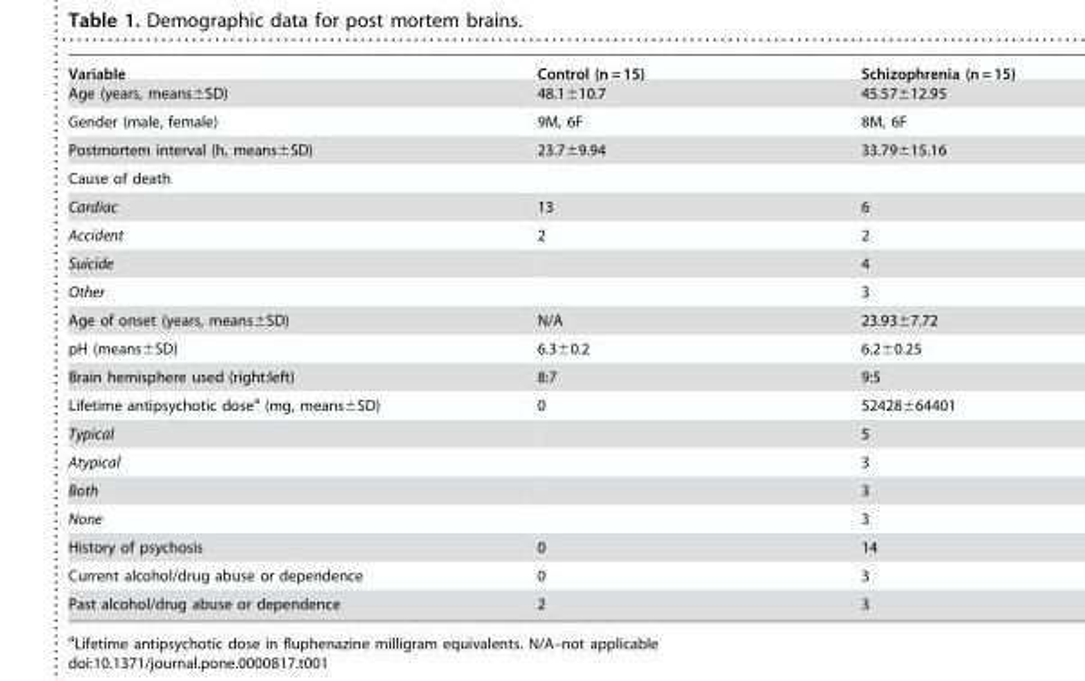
<table><thead><tr><td>Variable</td><td>Control (n = 15)</td><td>Schizophrenia (n = 15)</td></tr></thead><tbody><tr><td>Age (years, means±SD)</td><td>48.1±10.7</td><td>45.57±12.95</td></tr><tr><td>Gender (male, female)</td><td>9M, 6F</td><td>8M, 6F</td></tr><tr><td>Postmortem interval (h, means±SD)</td><td>23.7±9.94</td><td>33.79±15.16</td></tr><tr><td colspan="3">Cause of death</td></tr><tr><td>Cardiac</td><td>13</td><td>6</td></tr><tr><td>Accident</td><td>2</td><td>2</td></tr><tr><td>Suicide</td><td></td><td>4</td></tr><tr><td>Other</td><td></td><td>3</td></tr><tr><td>Age of onset (years, means±SD)</td><td>N/A</td><td>23.93±7.72</td></tr><tr><td>pH (means±SD)</td><td>6.3±0.2</td><td>6.2±0.25</td></tr><tr><td>Brain hemisphere used (right:left)</td><td>8:7</td><td>9:5</td></tr><tr><td>Lifetime antipsychotic dose<sup>a</sup> (mg, means±SD)</td><td>0</td><td>52428±64401</td></tr><tr><td>Typical</td><td></td><td>5</td></tr><tr><td>Atypical</td><td></td><td>3</td></tr><tr><td>Both</td><td></td><td>3</td></tr><tr><td>None</td><td></td><td>3</td></tr><tr><td>History of psychosis</td><td>0</td><td>14</td></tr><tr><td>Current alcohol/drug abuse or dependence</td><td>0</td><td>3</td></tr><tr><td>Past alcohol/drug abuse or dependence</td><td>2</td><td>3</td></tr></tbody></table>